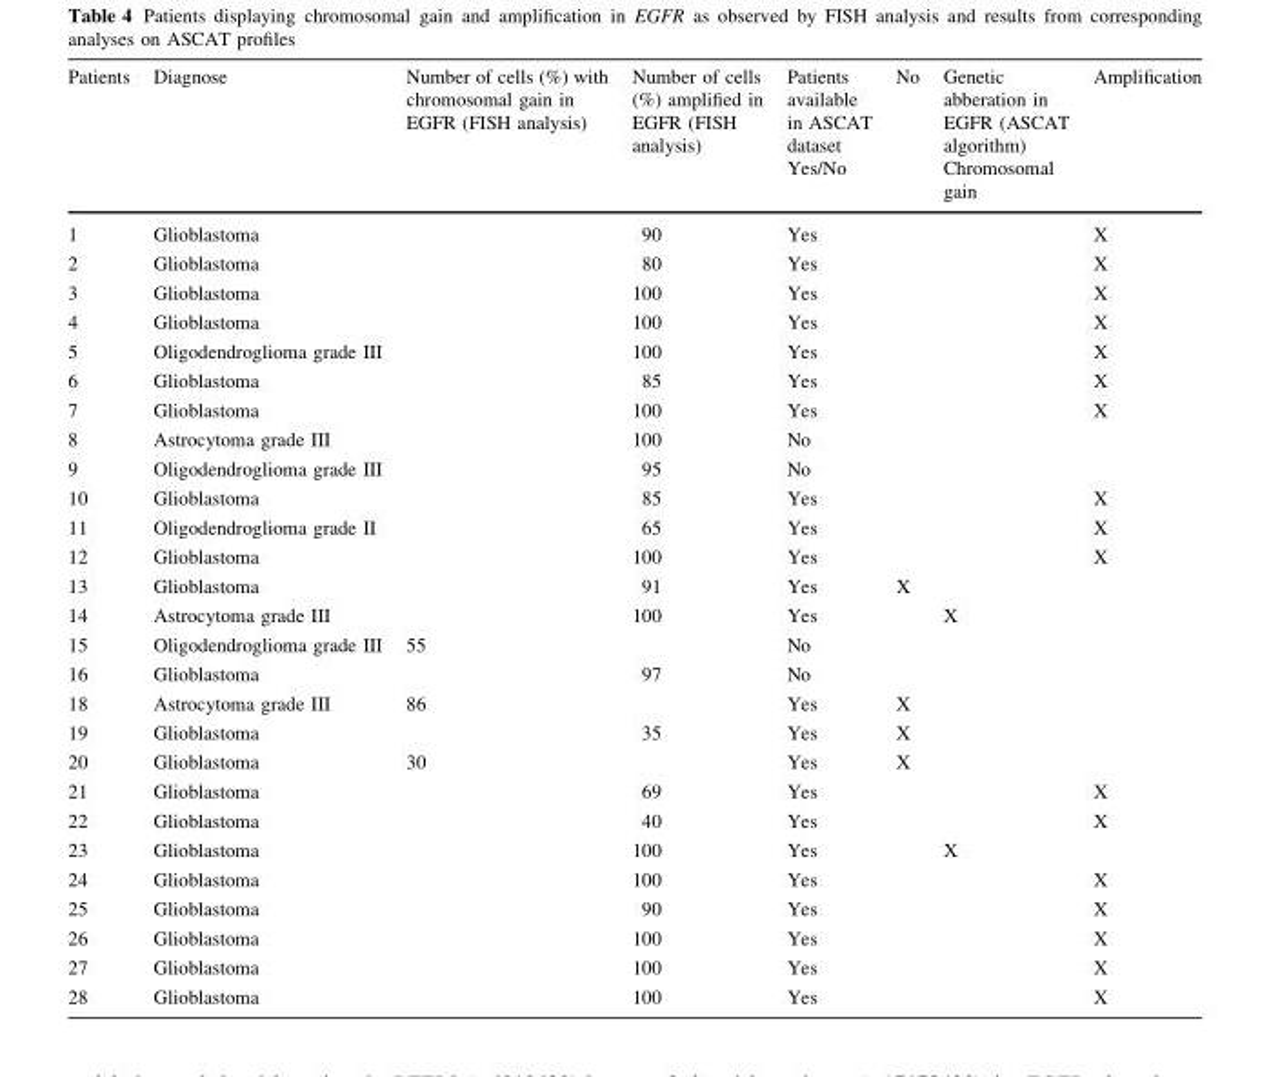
<table><thead><tr><td rowspan="2">Patients</td><td rowspan="2">Diagnose</td><td rowspan="2">Number of cells (%) with chromosomal gain in EGFR (FISH analysis)</td><td rowspan="2">Number of cells (%) amplified in EGFR (FISH analysis)</td><td rowspan="2">Patients available in ASCAT dataset Yes/No</td><td rowspan="2">No</td><td rowspan="2">Genetic abberation in EGFR (ASCAT algorithm) Chromosomal gain</td><td rowspan="2">Amplification</td></tr><tr></tr></thead><tbody><tr><td>1</td><td>Glioblastoma</td><td></td><td>90</td><td>Yes</td><td></td><td></td><td>X</td></tr><tr><td>2</td><td>Glioblastoma</td><td></td><td>80</td><td>Yes</td><td></td><td></td><td>X</td></tr><tr><td>3</td><td>Glioblastoma</td><td></td><td>100</td><td>Yes</td><td></td><td></td><td>X</td></tr><tr><td>4</td><td>Glioblastoma</td><td></td><td>100</td><td>Yes</td><td></td><td></td><td>X</td></tr><tr><td>5</td><td>Oligodendroglioma grade III</td><td></td><td>100</td><td>Yes</td><td></td><td></td><td>X</td></tr><tr><td>6</td><td>Glioblastoma</td><td></td><td>85</td><td>Yes</td><td></td><td></td><td>X</td></tr><tr><td>7</td><td>Glioblastoma</td><td></td><td>100</td><td>Yes</td><td></td><td></td><td>X</td></tr><tr><td>8</td><td>Astrocytoma grade III</td><td></td><td>100</td><td>No</td><td></td><td></td><td></td></tr><tr><td>9</td><td>Oligodendroglioma grade III</td><td></td><td>95</td><td>No</td><td></td><td></td><td></td></tr><tr><td>10</td><td>Glioblastoma</td><td></td><td>85</td><td>Yes</td><td></td><td></td><td>X</td></tr><tr><td>11</td><td>Oligodendroglioma grade II</td><td></td><td>65</td><td>Yes</td><td></td><td></td><td>X</td></tr><tr><td>12</td><td>Glioblastoma</td><td></td><td>100</td><td>Yes</td><td></td><td></td><td>X</td></tr><tr><td>13</td><td>Glioblastoma</td><td></td><td>91</td><td>Yes</td><td>X</td><td></td><td></td></tr><tr><td>14</td><td>Astrocytoma grade III</td><td></td><td>100</td><td>Yes</td><td></td><td>X</td><td></td></tr><tr><td>15</td><td>Oligodendroglioma grade III</td><td>55</td><td></td><td>No</td><td></td><td></td><td></td></tr><tr><td>16</td><td>Glioblastoma</td><td></td><td>97</td><td>No</td><td></td><td></td><td></td></tr><tr><td>18</td><td>Astrocytoma grade III</td><td>86</td><td></td><td>Yes</td><td>X</td><td></td><td></td></tr><tr><td>19</td><td>Glioblastoma</td><td></td><td>35</td><td>Yes</td><td>X</td><td></td><td></td></tr><tr><td>20</td><td>Glioblastoma</td><td>30</td><td></td><td>Yes</td><td>X</td><td></td><td></td></tr><tr><td>21</td><td>Glioblastoma</td><td></td><td>69</td><td>Yes</td><td></td><td></td><td>X</td></tr><tr><td>22</td><td>Glioblastoma</td><td></td><td>40</td><td>Yes</td><td></td><td></td><td>X</td></tr><tr><td>23</td><td>Glioblastoma</td><td></td><td>100</td><td>Yes</td><td></td><td>X</td><td></td></tr><tr><td>24</td><td>Glioblastoma</td><td></td><td>100</td><td>Yes</td><td></td><td></td><td>X</td></tr><tr><td>25</td><td>Glioblastoma</td><td></td><td>90</td><td>Yes</td><td></td><td></td><td>X</td></tr><tr><td>26</td><td>Glioblastoma</td><td></td><td>100</td><td>Yes</td><td></td><td></td><td>X</td></tr><tr><td>27</td><td>Glioblastoma</td><td></td><td>100</td><td>Yes</td><td></td><td></td><td>X</td></tr><tr><td>28</td><td>Glioblastoma</td><td></td><td>100</td><td>Yes</td><td></td><td></td><td>X</td></tr></tbody></table>